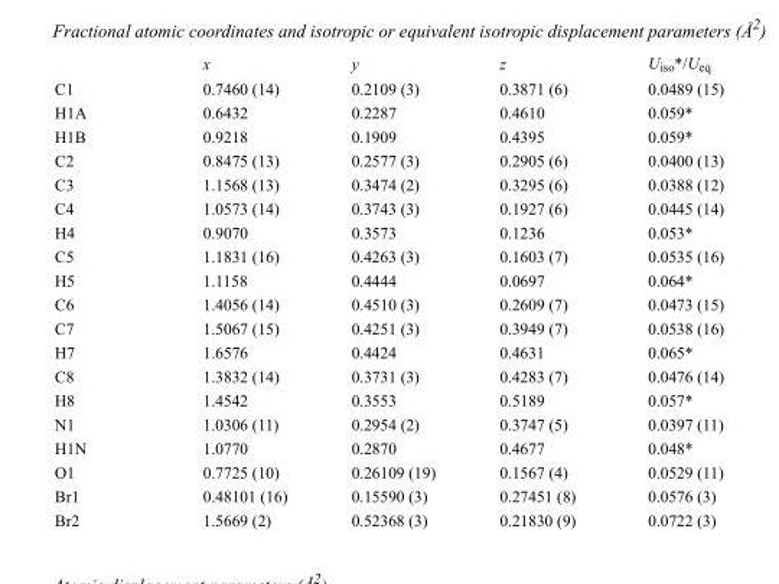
<table><thead><tr><td></td><td>x</td><td>y</td><td>z</td><td>U<sub>iso</sub>*/U<sub>eq</sub></td></tr></thead><tbody><tr><td>C1</td><td>0.7460 (14)</td><td>0.2109 (3)</td><td>0.3871 (6)</td><td>0.0489 (15)</td></tr><tr><td>H1A</td><td>0.6432</td><td>0.2287</td><td>0.4610</td><td>0.059*</td></tr><tr><td>H1B</td><td>0.9218</td><td>0.1909</td><td>0.4395</td><td>0.059*</td></tr><tr><td>C2</td><td>0.8475 (13)</td><td>0.2577 (3)</td><td>0.2905 (6)</td><td>0.0400 (13)</td></tr><tr><td>C3</td><td>1.1568 (13)</td><td>0.3474 (2)</td><td>0.3295 (6)</td><td>0.0388 (12)</td></tr><tr><td>C4</td><td>1.0573 (14)</td><td>0.3743 (3)</td><td>0.1927 (6)</td><td>0.0445 (14)</td></tr><tr><td>H4</td><td>0.9070</td><td>0.3573</td><td>0.1236</td><td>0.053*</td></tr><tr><td>C5</td><td>1.1831 (16)</td><td>0.4263 (3)</td><td>0.1603 (7)</td><td>0.0535 (16)</td></tr><tr><td>H5</td><td>1.1158</td><td>0.4444</td><td>0.0697</td><td>0.064*</td></tr><tr><td>C6</td><td>1.4056 (14)</td><td>0.4510 (3)</td><td>0.2609 (7)</td><td>0.0473 (15)</td></tr><tr><td>C7</td><td>1.5067 (15)</td><td>0.4251 (3)</td><td>0.3949 (7)</td><td>0.0538 (16)</td></tr><tr><td>H7</td><td>1.6576</td><td>0.4424</td><td>0.4631</td><td>0.065*</td></tr><tr><td>C8</td><td>1.3832 (14)</td><td>0.3731 (3)</td><td>0.4283 (7)</td><td>0.0476 (14)</td></tr><tr><td>H8</td><td>1.4542</td><td>0.3553</td><td>0.5189</td><td>0.057*</td></tr><tr><td>N1</td><td>1.0306 (11)</td><td>0.2954 (2)</td><td>0.3747 (5)</td><td>0.0397 (11)</td></tr><tr><td>H1N</td><td>1.0770</td><td>0.2870</td><td>0.4677</td><td>0.048*</td></tr><tr><td>O1</td><td>0.7725 (10)</td><td>0.26109 (19)</td><td>0.1567 (4)</td><td>0.0529 (11)</td></tr><tr><td>Br1</td><td>0.48101 (16)</td><td>0.15590 (3)</td><td>0.27451 (8)</td><td>0.0576 (3)</td></tr><tr><td>Br2</td><td>1.5669 (2)</td><td>0.52368 (3)</td><td>0.21830 (9)</td><td>0.0722 (3)</td></tr></tbody></table>